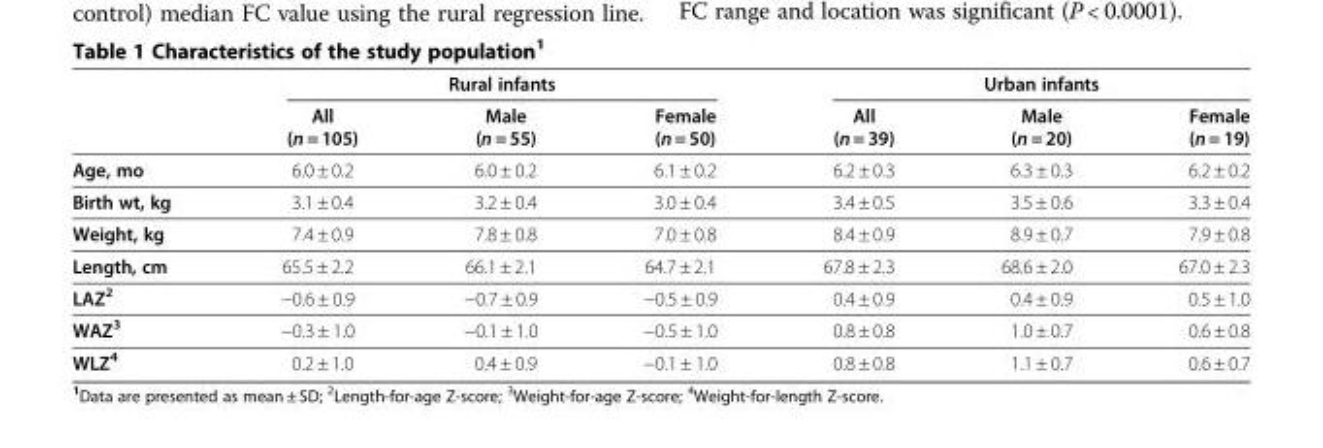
<table><thead><tr><td rowspan="2"></td><td colspan="3">Rural infants</td><td colspan="3">Urban infants</td></tr><tr><td>All (n = 105)</td><td>Male (n = 55)</td><td>Female (n = 50)</td><td>All (n = 39)</td><td>Male (n = 20)</td><td>Female (n = 19)</td></tr></thead><tbody><tr><td>Age, mo</td><td>6.0 ± 0.2</td><td>6.0 ± 0.2</td><td>6.1 ± 0.2</td><td>6.2 ± 0.3</td><td>6.3 ± 0.3</td><td>6.2 ± 0.2</td></tr><tr><td>Birth wt, kg</td><td>3.1 ± 0.4</td><td>3.2 ± 0.4</td><td>3.0 ± 0.4</td><td>3.4 ± 0.5</td><td>3.5 ± 0.6</td><td>3.3 ± 0.4</td></tr><tr><td>Weight, kg</td><td>7.4 ± 0.9</td><td>7.8 ± 0.8</td><td>7.0 ± 0.8</td><td>8.4 ± 0.9</td><td>8.9 ± 0.7</td><td>7.9 ± 0.8</td></tr><tr><td>Length, cm</td><td>65.5 ± 2.2</td><td>66.1 ± 2.1</td><td>64.7 ± 2.1</td><td>67.8 ± 2.3</td><td>68.6 ± 2.0</td><td>67.0 ± 2.3</td></tr><tr><td>LAZ<sup>2</sup></td><td>−0.6 ± 0.9</td><td>−0.7 ± 0.9</td><td>−0.5 ± 0.9</td><td>0.4 ± 0.9</td><td>0.4 ± 0.9</td><td>0.5 ± 1.0</td></tr><tr><td>WAZ<sup>3</sup></td><td>−0.3 ± 1.0</td><td>−0.1 ± 1.0</td><td>−0.5 ± 1.0</td><td>0.8 ± 0.8</td><td>1.0 ± 0.7</td><td>0.6 ± 0.8</td></tr><tr><td>WLZ<sup>4</sup></td><td>0.2 ± 1.0</td><td>0.4 ± 0.9</td><td>−0.1 ± 1.0</td><td>0.8 ± 0.8</td><td>1.1 ± 0.7</td><td>0.6 ± 0.7</td></tr></tbody></table>